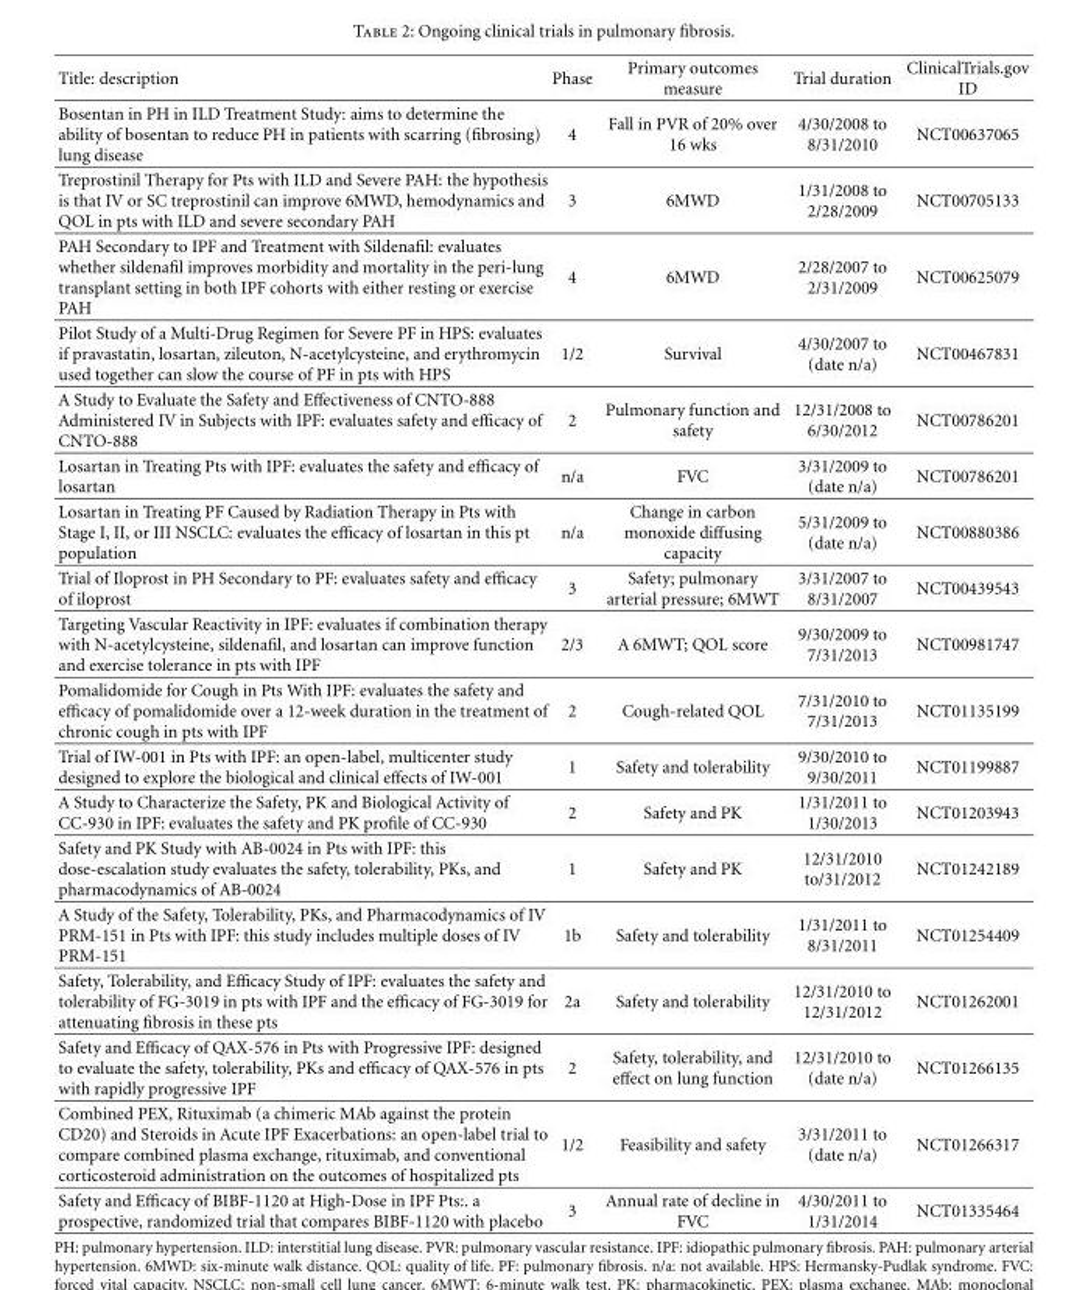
<table><thead><tr><td>Title: description</td><td>Phase</td><td>Primary outcomes measure</td><td>Trial duration</td><td>ClinicalTrials.gov ID</td></tr></thead><tbody><tr><td>Bosentan in PH in ILD Treatment Study: aims to determine the ability of bosentan to reduce PH in patients with scarring (fibrosing) lung disease</td><td>4</td><td>Fall in PVR of 20% over 16 wks</td><td>4/30/2008 to 8/31/2010</td><td>NCT00637065</td></tr><tr><td>Treprostinil Therapy for Pts with ILD and Severe PAH: the hypothesis is that IV or SC treprostinil can improve 6MWD, hemodynamics and QOL in pts with ILD and severe secondary PAH</td><td>3</td><td>6MWD</td><td>1/31/2008 to 2/28/2009</td><td>NCT00705133</td></tr><tr><td>PAH Secondary to IPF and Treatment with Sildenafil: evaluates whether sildenafil improves morbidity and mortality in the peri-lung transplant setting in both IPF cohorts with either resting or exercise PAH</td><td>4</td><td>6MWD</td><td>2/28/2007 to 2/31/2009</td><td>NCT00625079</td></tr><tr><td>Pilot Study of a Multi-Drug Regimen for Severe PF in HPS: evaluates if pravastatin, losartan, zileuton, N-acetylcysteine, and erythromycin used together can slow the course of PF in pts with HPS</td><td>1/2</td><td>Survival</td><td>4/30/2007 to (date n/a)</td><td>NCT00467831</td></tr><tr><td>A Study to Evaluate the Safety and Effectiveness of CNTO-888 Administered IV in Subjects with IPF: evaluates safety and efficacy of CNTO-888</td><td>2</td><td>Pulmonary function and safety</td><td>12/31/2008 to 6/30/2012</td><td>NCT00786201</td></tr><tr><td>Losartan in Treating Pts with IPF: evaluates the safety and efficacy of losartan</td><td>n/a</td><td>FVC</td><td>3/31/2009 to (date n/a)</td><td>NCT00786201</td></tr><tr><td>Losartan in Treating PF Caused by Radiation Therapy in Pts with Stage I, II, or III NSCLC: evaluates the efficacy of losartan in this pt population</td><td>n/a</td><td>Change in carbon monoxide diffusing capacity</td><td>5/31/2009 to (date n/a)</td><td>NCT00880386</td></tr><tr><td>Trial of Iloprost in PH Secondary to PF: evaluates safety and efficacy of iloprost</td><td>3</td><td>Safety; pulmonary arterial pressure; 6MWT</td><td>3/31/2007 to 8/31/2007</td><td>NCT00439543</td></tr><tr><td>Targeting Vascular Reactivity in IPF: evaluates if combination therapy with N-acetylcysteine, sildenafil, and losartan can improve function and exercise tolerance in pts with IPF</td><td>2/3</td><td>A 6MWT; QOL score</td><td>9/30/2009 to 7/31/2013</td><td>NCT00981747</td></tr><tr><td>Pomalidomide for Cough in Pts With IPF: evaluates the safety and efficacy of pomalidomide over a 12-week duration in the treatment of chronic cough in pts with IPF</td><td>2</td><td>Cough-related QOL</td><td>7/31/2010 to 7/31/2013</td><td>NCT01135199</td></tr><tr><td>Trial of IW-001 in Pts with IPF: an open-label, multicenter study designed to explore the biological and clinical effects of IW-001</td><td>1</td><td>Safety and tolerability</td><td>9/30/2010 to 9/30/2011</td><td>NCT01199887</td></tr><tr><td>A Study to Characterize the Safety, PK and Biological Activity of CC-930 in IPF: evaluates the safety and PK profile of CC-930</td><td>2</td><td>Safety and PK</td><td>1/31/2011 to 1/30/2013</td><td>NCT01203943</td></tr><tr><td>Safety and PK Study with AB-0024 in Pts with IPF: this dose-escalation study evaluates the safety, tolerability, PKs, and pharmacodynamics of AB-0024</td><td>1</td><td>Safety and PK</td><td>12/31/2010 to/31/2012</td><td>NCT01242189</td></tr><tr><td>A Study of the Safety, Tolerability, PKs, and Pharmacodynamics of IV PRM-151 in Pts with IPF: this study includes multiple doses of IV PRM-151</td><td>1b</td><td>Safety and tolerability</td><td>1/31/2011 to 8/31/2011</td><td>NCT01254409</td></tr><tr><td>Safety, Tolerability, and Efficacy Study of IPF: evaluates the safety and tolerability of FG-3019 in pts with IPF and the efficacy of FG-3019 for attenuating fibrosis in these pts</td><td>2a</td><td>Safety and tolerability</td><td>12/31/2010 to 12/31/2012</td><td>NCT01262001</td></tr><tr><td>Safety and Efficacy of QAX-576 in Pts with Progressive IPF: designed to evaluate the safety, tolerability, PKs and efficacy of QAX-576 in pts with rapidly progressive IPF</td><td>2</td><td>Safety, tolerability, and effect on lung function</td><td>12/31/2010 to (date n/a)</td><td>NCT01266135</td></tr><tr><td>Combined PEX, Rituximab (a chimeric MAb against the protein CD20) and Steroids in Acute IPF Exacerbations: an open-label trial to compare combined plasma exchange, rituximab, and conventional corticosteroid administration on the outcomes of hospitalized pts</td><td>1/2</td><td>Feasibility and safety</td><td>3/31/2011 to (date n/a)</td><td>NCT01266317</td></tr><tr><td>Safety and Efficacy of BIBF-1120 at High-Dose in IPF Pts:. a prospective, randomized trial that compares BIBF-1120 with placebo</td><td>3</td><td>Annual rate of decline in FVC</td><td>4/30/2011 to 1/31/2014</td><td>NCT01335464</td></tr></tbody></table>